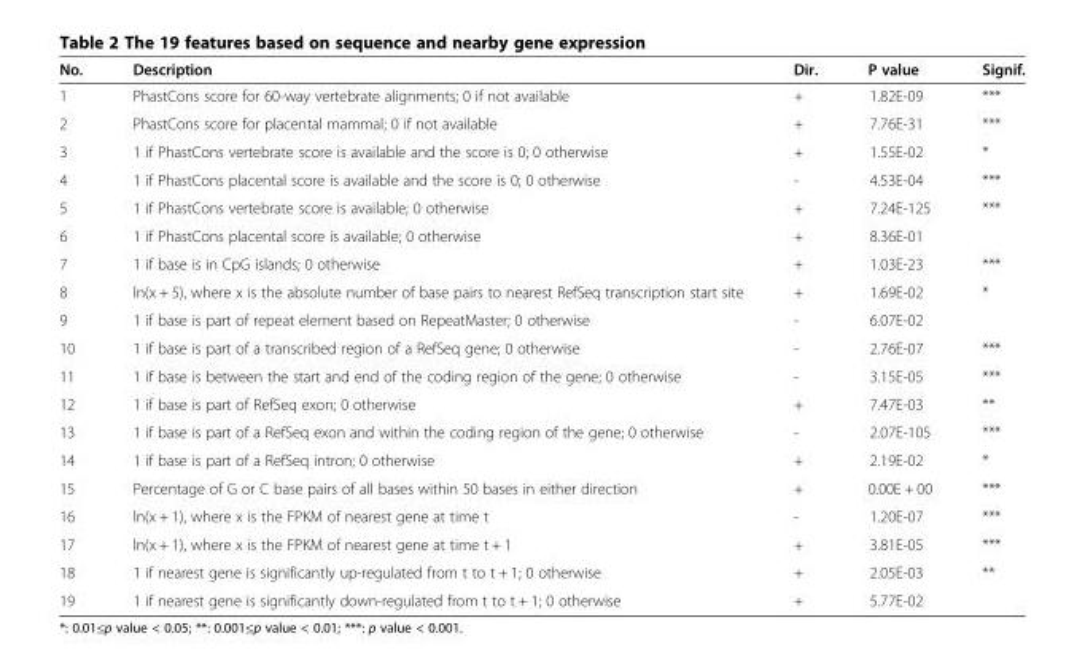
<table><thead><tr><td>No.</td><td>Description</td><td>Dir.</td><td>P value</td><td>Signif.</td></tr></thead><tbody><tr><td>1</td><td>PhastCons score for 60-way vertebrate alignments; 0 if not available</td><td>+</td><td>1.82E-09</td><td>***</td></tr><tr><td>2</td><td>PhastCons score for placental mammal; 0 if not available</td><td>+</td><td>7.76E-31</td><td>***</td></tr><tr><td>3</td><td>1 if PhastCons vertebrate score is available and the score is 0; 0 otherwise</td><td>+</td><td>1.55E-02</td><td>*</td></tr><tr><td>4</td><td>1 if PhastCons placental score is available and the score is 0; 0 otherwise</td><td>-</td><td>4.53E-04</td><td>***</td></tr><tr><td>5</td><td>1 if PhastCons vertebrate score is available; 0 otherwise</td><td>+</td><td>7.24E-125</td><td>***</td></tr><tr><td>6</td><td>1 if PhastCons placental score is available; 0 otherwise</td><td>+</td><td>8.36E-01</td><td></td></tr><tr><td>7</td><td>1 if base is in CpG islands; 0 otherwise</td><td>+</td><td>1.03E-23</td><td>***</td></tr><tr><td>8</td><td>ln(x + 5), where x is the absolute number of base pairs to nearest RefSeq transcription start site</td><td>+</td><td>1.69E-02</td><td>*</td></tr><tr><td>9</td><td>1 if base is part of repeat element based on RepeatMaster; 0 otherwise</td><td>-</td><td>6.07E-02</td><td></td></tr><tr><td>10</td><td>1 if base is part of a transcribed region of a RefSeq gene; 0 otherwise</td><td>-</td><td>2.76E-07</td><td>***</td></tr><tr><td>11</td><td>1 if base is between the start and end of the coding region of the gene; 0 otherwise</td><td>-</td><td>3.15E-05</td><td>***</td></tr><tr><td>12</td><td>1 if base is part of RefSeq exon; 0 otherwise</td><td>+</td><td>7.47E-03</td><td>**</td></tr><tr><td>13</td><td>1 if base is part of a RefSeq exon and within the coding region of the gene; 0 otherwise</td><td>-</td><td>2.07E-105</td><td>***</td></tr><tr><td>14</td><td>1 if base is part of a RefSeq intron; 0 otherwise</td><td>+</td><td>2.19E-02</td><td>*</td></tr><tr><td>15</td><td>Percentage of G or C base pairs of all bases within 50 bases in either direction</td><td>+</td><td>0.00E + 00</td><td>***</td></tr><tr><td>16</td><td>ln(x + 1), where x is the FPKM of nearest gene at time t</td><td>-</td><td>1.20E-07</td><td>***</td></tr><tr><td>17</td><td>ln(x + 1), where x is the FPKM of nearest gene at time t + 1</td><td>+</td><td>3.81E-05</td><td>***</td></tr><tr><td>18</td><td>1 if nearest gene is significantly up-regulated from t to t + 1; 0 otherwise</td><td>+</td><td>2.05E-03</td><td>**</td></tr><tr><td>19</td><td>1 if nearest gene is significantly down-regulated from t to t + 1; 0 otherwise</td><td>+</td><td>5.77E-02</td><td></td></tr></tbody></table>